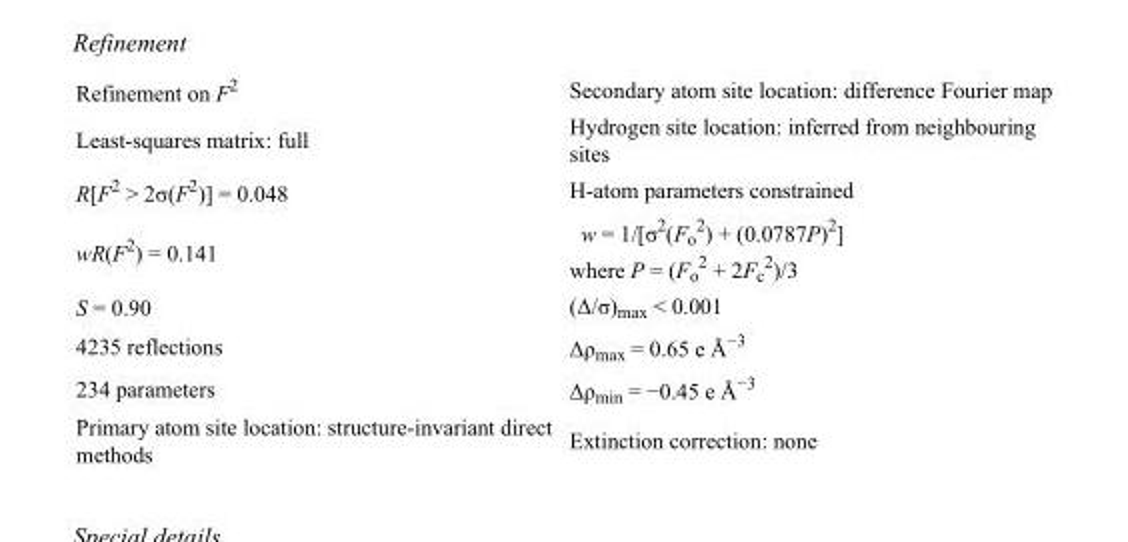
<table><tbody><tr><td>Refinement on F<sup>2</sup></td><td>Secondary atom site location: difference Fourier map</td></tr><tr><td>Least-squares matrix: full</td><td>Hydrogen site location: inferred from neighbouring sites</td></tr><tr><td>R[F<sup>2</sup> &gt; 2σ(F<sup>2</sup>)] = 0.048</td><td>H-atom parameters constrained</td></tr><tr><td>wR(F<sup>2</sup>) = 0.141</td><td>w = 1/[σ<sup>2</sup>(F<sub>o</sub> <sup>2</sup>) + (0.0787P)<sup>2</sup>] where P = (F<sub>o</sub> <sup>2</sup> + 2F<sub>c</sub> <sup>2</sup>)/3</td></tr><tr><td>S = 0.90</td><td>(Δ/σ)<sub>max</sub> &lt; 0.001</td></tr><tr><td>4235 reflections</td><td>Δρ<sub>max</sub> = 0.65 e Å<sup>−3</sup></td></tr><tr><td>234 parameters</td><td>Δρ<sub>min</sub> = −0.45 e Å<sup>−3</sup></td></tr><tr><td>Primary atom site location: structure-invariant direct methods</td><td>Extinction correction: none</td></tr></tbody></table>